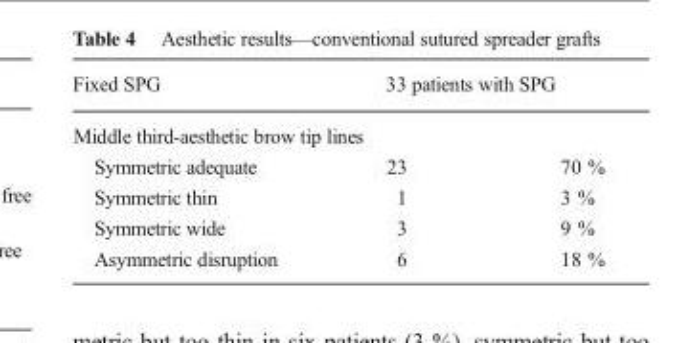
<table><thead><tr><td>Fixed SPG</td><td colspan="2">33 patients with SPG</td></tr><tr><td colspan="3">Middle third-aesthetic brow tip lines</td></tr><tr><td>Symmetric adequate</td><td>23</td><td>70 %</td></tr></thead><tbody><tr><td>Symmetric thin</td><td>1</td><td>3 %</td></tr><tr><td>Symmetric wide</td><td>3</td><td>9 %</td></tr><tr><td>Asymmetric disruption</td><td>6</td><td>18 %</td></tr></tbody></table>